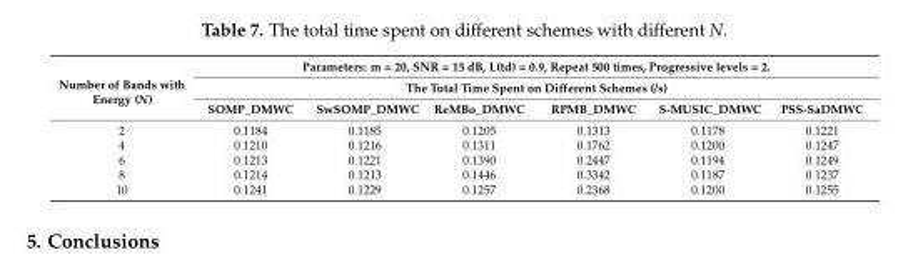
<table><thead><tr><td rowspan="3">Number of Bands with Energy (N)</td><td rowspan="2" colspan="6">Parameters: m = 20, SNR = 15 dB, L(td) = 0.9, Repeat 500 times, Progressive levels = 2. The Total Time Spent on Different Schemes (/s)</td></tr><tr></tr><tr><td>SOMP_DMWC</td><td>SwSOMP_DMWC</td><td>ReMBo_DMWC</td><td>RPMB_DMWC</td><td>S-MUSIC_DMWC</td><td>PSS-SaDMWC</td></tr></thead><tbody><tr><td>2</td><td>0.1184</td><td>0.1185</td><td>0.1205</td><td>0.1313</td><td>0.1178</td><td>0.1221</td></tr><tr><td>4</td><td>0.1210</td><td>0.1216</td><td>0.1311</td><td>0.1762</td><td>0.1200</td><td>0.1247</td></tr><tr><td>6</td><td>0.1213</td><td>0.1221</td><td>0.1390</td><td>0.2447</td><td>0.1194</td><td>0.1249</td></tr><tr><td>8</td><td>0.1214</td><td>0.1213</td><td>0.1446</td><td>0.3342</td><td>0.1187</td><td>0.1237</td></tr><tr><td>10</td><td>0.1241</td><td>0.1229</td><td>0.1257</td><td>0.2368</td><td>0.1200</td><td>0.1255</td></tr></tbody></table>